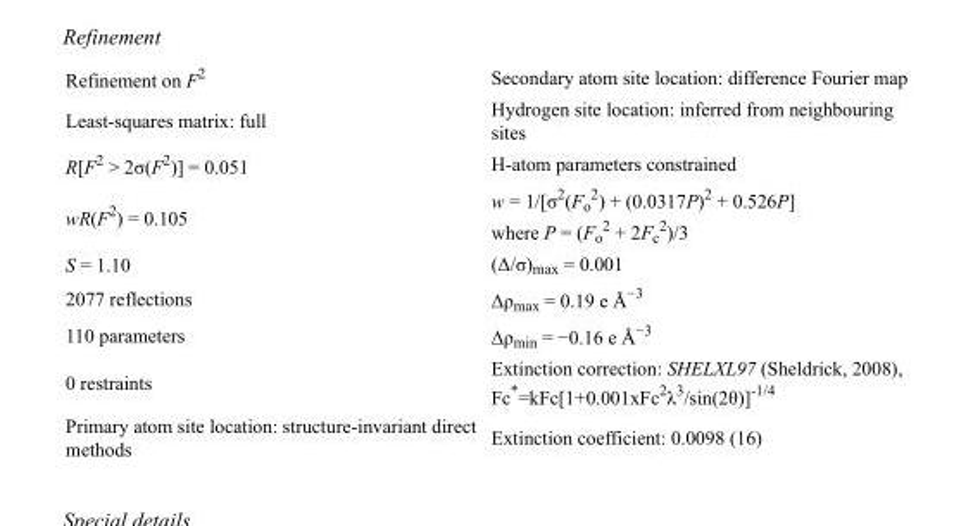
<table><tbody><tr><td>Refinement on F<sup>2</sup></td><td>Secondary atom site location: difference Fourier map</td></tr><tr><td>Least-squares matrix: full</td><td>Hydrogen site location: inferred from neighbouring sites</td></tr><tr><td>R[F<sup>2</sup> &gt; 2σ(F<sup>2</sup>)] = 0.051</td><td>H-atom parameters constrained</td></tr><tr><td>wR(F<sup>2</sup>) = 0.105</td><td>w = 1/[σ<sup>2</sup>(F<sub>o</sub> <sup>2</sup>) + (0.0317P)<sup>2</sup> + 0.526P] where P = (F<sub>o</sub> <sup>2</sup> + 2F<sub>c</sub> <sup>2</sup>)/3</td></tr><tr><td>S = 1.10</td><td>(Δ/σ)<sub>max</sub> = 0.001</td></tr><tr><td>2077 reflections</td><td>Δρ<sub>max</sub> = 0.19 e Å<sup>−3</sup></td></tr><tr><td>110 parameters</td><td>Δρ<sub>min</sub> = −0.16 e Å<sup>−3</sup></td></tr><tr><td>0 restraints</td><td>Extinction correction: SHELXL97 (Sheldrick, 2008), Fc*=kFc[1+0.001xFc<sup>2</sup>λ<sup>3</sup>/sin(2θ)]<sup>-1/4</sup></td></tr><tr><td>Primary atom site location: structure-invariant direct methods</td><td>Extinction coefficient: 0.0098 (16)</td></tr></tbody></table>